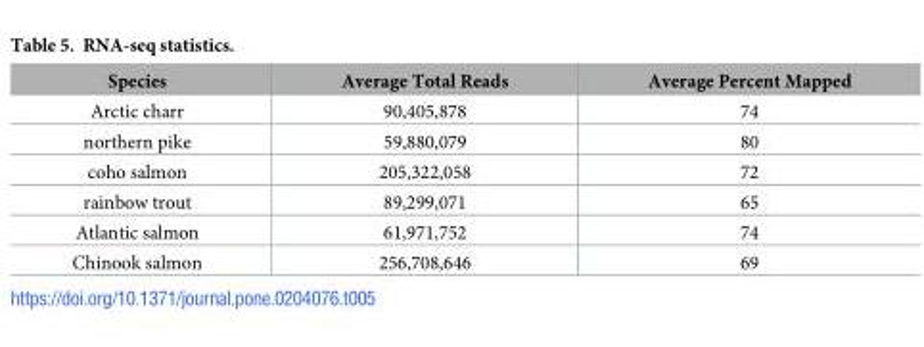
<table><thead><tr><td>Species</td><td>Average Total Reads</td><td>Average Percent Mapped</td></tr></thead><tbody><tr><td>Arctic charr</td><td>90,405,878</td><td>74</td></tr><tr><td>northern pike</td><td>59,880,079</td><td>80</td></tr><tr><td>coho salmon</td><td>205,322,058</td><td>72</td></tr><tr><td>rainbow trout</td><td>89,299,071</td><td>65</td></tr><tr><td>Atlantic salmon</td><td>61,971,752</td><td>74</td></tr><tr><td>Chinook salmon</td><td>256,708,646</td><td>69</td></tr></tbody></table>